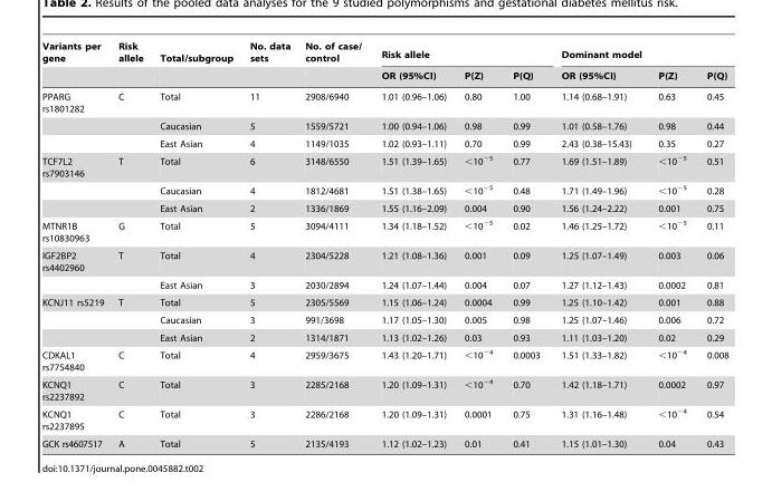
<table><thead><tr><td rowspan="2">Variants per gene</td><td rowspan="2">Risk allele</td><td rowspan="2">Total/subgroup</td><td rowspan="2">No. data sets</td><td rowspan="2">No. of case/ control</td><td colspan="3">Risk allele</td><td colspan="3">Dominant model</td></tr><tr><td>OR (95%CI)</td><td>P(Z)</td><td>P(Q)</td><td>OR (95%CI)</td><td>P(Z)</td><td>P(Q)</td></tr></thead><tbody><tr><td rowspan="3">PPARG rs1801282</td><td>C</td><td>Total</td><td>11</td><td>2908/6940</td><td>1.01 (0.96–1.06)</td><td>0.80</td><td>1.00</td><td>1.14 (0.68–1.91)</td><td>0.63</td><td>0.45</td></tr><tr><td></td><td>Caucasian</td><td>5</td><td>1559/5721</td><td>1.00 (0.94–1.06)</td><td>0.98</td><td>0.99</td><td>1.01 (0.58–1.76)</td><td>0.98</td><td>0.44</td></tr><tr><td></td><td>East Asian</td><td>4</td><td>1149/1035</td><td>1.02 (0.93–1.11)</td><td>0.70</td><td>0.99</td><td>2.43 (0.38–15.43)</td><td>0.35</td><td>0.27</td></tr><tr><td rowspan="3">TCF7L2 rs7903146</td><td>T</td><td>Total</td><td>6</td><td>3148/6550</td><td>1.51 (1.39–1.65)</td><td>&lt;10<sup>−5</sup></td><td>0.77</td><td>1.69 (1.51–1.89)</td><td>&lt;10<sup>−5</sup></td><td>0.51</td></tr><tr><td></td><td>Caucasian</td><td>4</td><td>1812/4681</td><td>1.51 (1.38–1.65)</td><td>&lt;10<sup>−5</sup></td><td>0.48</td><td>1.71 (1.49–1.96)</td><td>&lt;10<sup>−5</sup></td><td>0.28</td></tr><tr><td></td><td>East Asian</td><td>2</td><td>1336/1869</td><td>1.55 (1.16–2.09)</td><td>0.004</td><td>0.90</td><td>1.56 (1.24–2.22)</td><td>0.001</td><td>0.75</td></tr><tr><td>MTNR1B rs10830963</td><td>G</td><td>Total</td><td>5</td><td>3094/4111</td><td>1.34 (1.18–1.52)</td><td>&lt;10<sup>−5</sup></td><td>0.02</td><td>1.46 (1.25–1.72)</td><td>&lt;10<sup>−5</sup></td><td>0.11</td></tr><tr><td rowspan="2">IGF2BP2 rs4402960</td><td>T</td><td>Total</td><td>4</td><td>2304/5228</td><td>1.21 (1.08–1.36)</td><td>0.001</td><td>0.09</td><td>1.25 (1.07–1.49)</td><td>0.003</td><td>0.06</td></tr><tr><td></td><td>East Asian</td><td>3</td><td>2030/2894</td><td>1.24 (1.07–1.44)</td><td>0.004</td><td>0.07</td><td>1.27 (1.12–1.43)</td><td>0.0002</td><td>0.81</td></tr><tr><td rowspan="3">KCNJ11 rs5219</td><td>T</td><td>Total</td><td>5</td><td>2305/5569</td><td>1.15 (1.06–1.24)</td><td>0.0004</td><td>0.99</td><td>1.25 (1.10–1.42)</td><td>0.001</td><td>0.88</td></tr><tr><td></td><td>Caucasian</td><td>3</td><td>991/3698</td><td>1.17 (1.05–1.30)</td><td>0.005</td><td>0.98</td><td>1.25 (1.07–1.46)</td><td>0.006</td><td>0.72</td></tr><tr><td></td><td>East Asian</td><td>2</td><td>1314/1871</td><td>1.13 (1.02–1.26)</td><td>0.03</td><td>0.93</td><td>1.11 (1.03–1.20)</td><td>0.02</td><td>0.29</td></tr><tr><td>CDKAL1 rs7754840</td><td>C</td><td>Total</td><td>4</td><td>2959/3675</td><td>1.43 (1.20–1.71)</td><td>&lt;10<sup>−4</sup></td><td>0.0003</td><td>1.51 (1.33–1.82)</td><td>&lt;10<sup>−4</sup></td><td>0.008</td></tr><tr><td>KCNQ1 rs2237892</td><td>C</td><td>Total</td><td>3</td><td>2285/2168</td><td>1.20 (1.09–1.31)</td><td>&lt;10<sup>−4</sup></td><td>0.70</td><td>1.42 (1.18–1.71)</td><td>0.0002</td><td>0.97</td></tr><tr><td>KCNQ1 rs2237895</td><td>C</td><td>Total</td><td>3</td><td>2286/2168</td><td>1.20 (1.09–1.31)</td><td>0.0001</td><td>0.75</td><td>1.31 (1.16–1.48)</td><td>&lt;10<sup>−4</sup></td><td>0.54</td></tr><tr><td>GCK rs4607517</td><td>A</td><td>Total</td><td>5</td><td>2135/4193</td><td>1.12 (1.02–1.23)</td><td>0.01</td><td>0.41</td><td>1.15 (1.01–1.30)</td><td>0.04</td><td>0.43</td></tr></tbody></table>